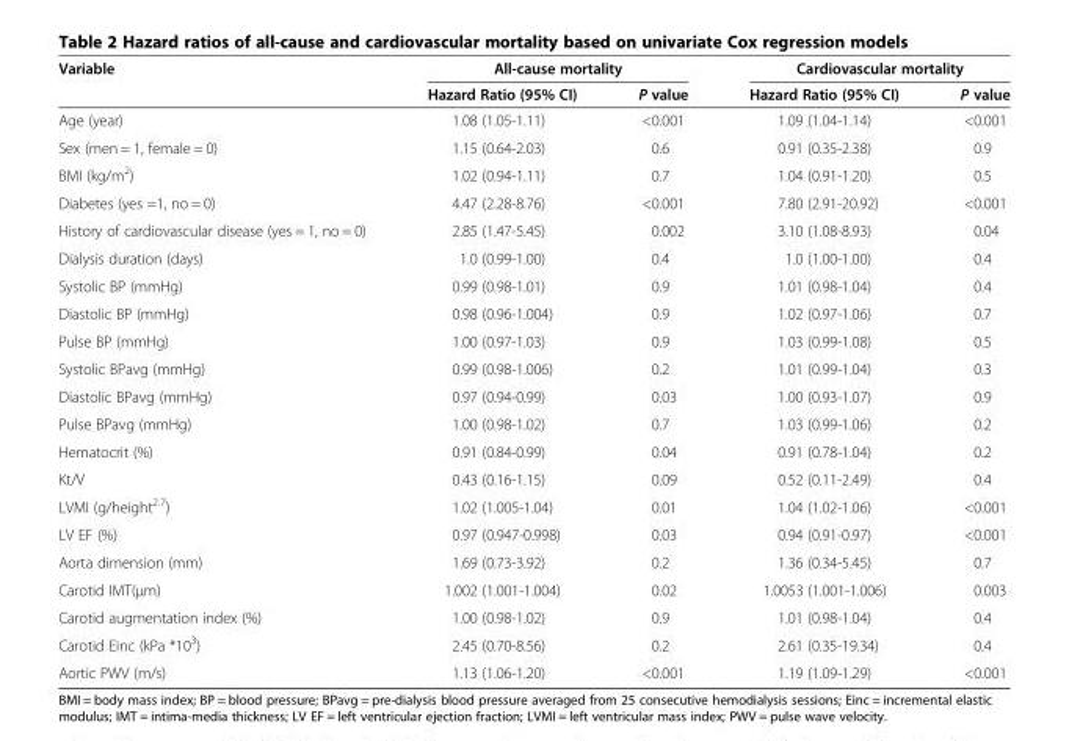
<table><thead><tr><td rowspan="2">Variable</td><td colspan="2">All-cause mortality</td><td colspan="2">Cardiovascular mortality</td></tr><tr><td>Hazard Ratio (95% CI)</td><td>P value</td><td>Hazard Ratio (95% CI)</td><td>P value</td></tr></thead><tbody><tr><td>Age (year)</td><td>1.08 (1.05-1.11)</td><td>&lt;0.001</td><td>1.09 (1.04-1.14)</td><td>&lt;0.001</td></tr><tr><td>Sex (men = 1, female = 0)</td><td>1.15 (0.64-2.03)</td><td>0.6</td><td>0.91 (0.35-2.38)</td><td>0.9</td></tr><tr><td>BMI (kg/m<sup>2</sup>)</td><td>1.02 (0.94-1.11)</td><td>0.7</td><td>1.04 (0.91-1.20)</td><td>0.5</td></tr><tr><td>Diabetes (yes =1, no = 0)</td><td>4.47 (2.28-8.76)</td><td>&lt;0.001</td><td>7.80 (2.91-20.92)</td><td>&lt;0.001</td></tr><tr><td>History of cardiovascular disease (yes = 1, no = 0)</td><td>2.85 (1.47-5.45)</td><td>0.002</td><td>3.10 (1.08-8.93)</td><td>0.04</td></tr><tr><td>Dialysis duration (days)</td><td>1.0 (0.99-1.00)</td><td>0.4</td><td>1.0 (1.00-1.00)</td><td>0.4</td></tr><tr><td>Systolic BP (mmHg)</td><td>0.99 (0.98-1.01)</td><td>0.9</td><td>1.01 (0.98-1.04)</td><td>0.4</td></tr><tr><td>Diastolic BP (mmHg)</td><td>0.98 (0.96-1.004)</td><td>0.9</td><td>1.02 (0.97-1.06)</td><td>0.7</td></tr><tr><td>Pulse BP (mmHg)</td><td>1.00 (0.97-1.03)</td><td>0.9</td><td>1.03 (0.99-1.08)</td><td>0.5</td></tr><tr><td>Systolic BPavg (mmHg)</td><td>0.99 (0.98-1.006)</td><td>0.2</td><td>1.01 (0.99-1.04)</td><td>0.3</td></tr><tr><td>Diastolic BPavg (mmHg)</td><td>0.97 (0.94-0.99)</td><td>0.03</td><td>1.00 (0.93-1.07)</td><td>0.9</td></tr><tr><td>Pulse BPavg (mmHg)</td><td>1.00 (0.98-1.02)</td><td>0.7</td><td>1.03 (0.99-1.06)</td><td>0.2</td></tr><tr><td>Hematocrit (%)</td><td>0.91 (0.84-0.99)</td><td>0.04</td><td>0.91 (0.78-1.04)</td><td>0.2</td></tr><tr><td>Kt/V</td><td>0.43 (0.16-1.15)</td><td>0.09</td><td>0.52 (0.11-2.49)</td><td>0.4</td></tr><tr><td>LVMI (g/height<sup>2.7</sup>)</td><td>1.02 (1.005-1.04)</td><td>0.01</td><td>1.04 (1.02-1.06)</td><td>&lt;0.001</td></tr><tr><td>LV EF (%)</td><td>0.97 (0.947-0.998)</td><td>0.03</td><td>0.94 (0.91-0.97)</td><td>&lt;0.001</td></tr><tr><td>Aorta dimension (mm)</td><td>1.69 (0.73-3.92)</td><td>0.2</td><td>1.36 (0.34-5.45)</td><td>0.7</td></tr><tr><td>Carotid IMT(μm)</td><td>1.002 (1.001-1.004)</td><td>0.02</td><td>1.0053 (1.001-1.006)</td><td>0.003</td></tr><tr><td>Carotid augmentation index (%)</td><td>1.00 (0.98-1.02)</td><td>0.9</td><td>1.01 (0.98-1.04)</td><td>0.4</td></tr><tr><td>Carotid Einc (kPa *10<sup>3</sup>)</td><td>2.45 (0.70-8.56)</td><td>0.2</td><td>2.61 (0.35-19.34)</td><td>0.4</td></tr><tr><td>Aortic PWV (m/s)</td><td>1.13 (1.06-1.20)</td><td>&lt;0.001</td><td>1.19 (1.09-1.29)</td><td>&lt;0.001</td></tr></tbody></table>